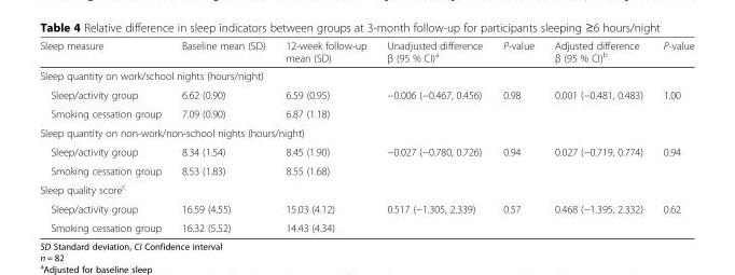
<table><thead><tr><td>Sleep measure</td><td>Baseline mean (SD)</td><td>12-week follow-up mean (SD)</td><td>Unadjusted difference β (95 % CI)<sup>a</sup></td><td>P-value</td><td>Adjusted difference β (95 % CI)<sup>b</sup></td><td>P-value</td></tr></thead><tbody><tr><td colspan="7">Sleep quantity on work/school nights (hours/night)</td></tr><tr><td>Sleep/activity group</td><td>6.62 (0.90)</td><td>6.59 (0.95)</td><td rowspan="2">−0.006 (−0.467, 0.456)</td><td rowspan="2">0.98</td><td rowspan="2">0.001 (−0.481, 0.483)</td><td rowspan="2">1.00</td></tr><tr><td>Smoking cessation group</td><td>7.09 (0.90)</td><td>6.87 (1.18)</td></tr><tr><td colspan="7">Sleep quantity on non-work/non-school nights (hours/night)</td></tr><tr><td>Sleep/activity group</td><td>8.34 (1.54)</td><td>8.45 (1.90)</td><td rowspan="2">−0.027 (−0.780, 0.726)</td><td rowspan="2">0.94</td><td rowspan="2">0.027 (−0.719, 0.774)</td><td rowspan="2">0.94</td></tr><tr><td>Smoking cessation group</td><td>8.53 (1.83)</td><td>8.55 (1.68)</td></tr><tr><td colspan="7">Sleep quality score<sup>c</sup></td></tr><tr><td>Sleep/activity group</td><td>16.59 (4.55)</td><td>15.03 (4.12)</td><td rowspan="2">0.517 (−1.305, 2.339)</td><td rowspan="2">0.57</td><td rowspan="2">0.468 (−1.395, 2.332)</td><td rowspan="2">0.62</td></tr><tr><td>Smoking cessation group</td><td>16.32 (5.52)</td><td>14.43 (4.34)</td></tr></tbody></table>